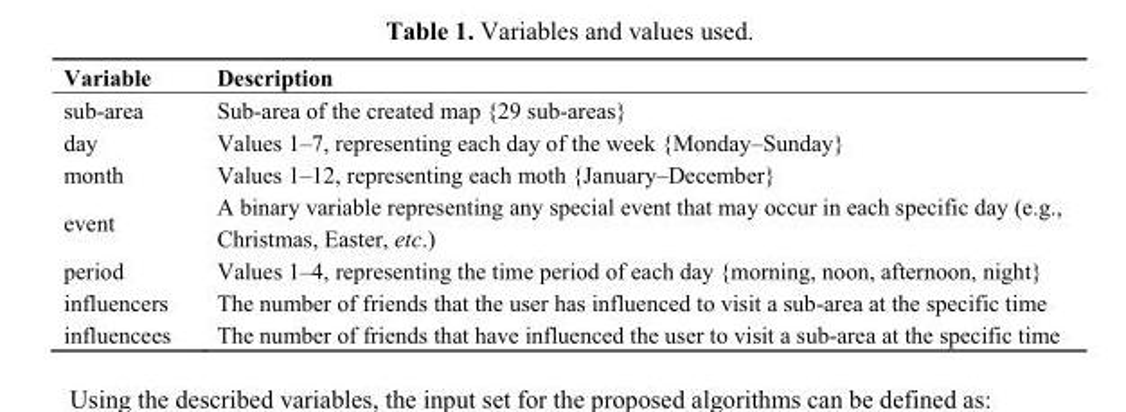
<table><thead><tr><td>Variable</td><td>Description</td></tr></thead><tbody><tr><td>sub-area</td><td>Sub-area of the created map {29 sub-areas}</td></tr><tr><td>day</td><td>Values 1–7, representing each day of the week {Monday–Sunday}</td></tr><tr><td>month</td><td>Values 1–12, representing each moth {January–December}</td></tr><tr><td>event</td><td>A binary variable representing any special event that may occur in each specific day (e.g., Christmas, Easter, etc.)</td></tr><tr><td>period</td><td>Values 1–4, representing the time period of each day {morning, noon, afternoon, night}</td></tr><tr><td>influencers</td><td>The number of friends that the user has influenced to visit a sub-area at the specific time</td></tr><tr><td>influencees</td><td>The number of friends that have influenced the user to visit a sub-area at the specific time</td></tr></tbody></table>